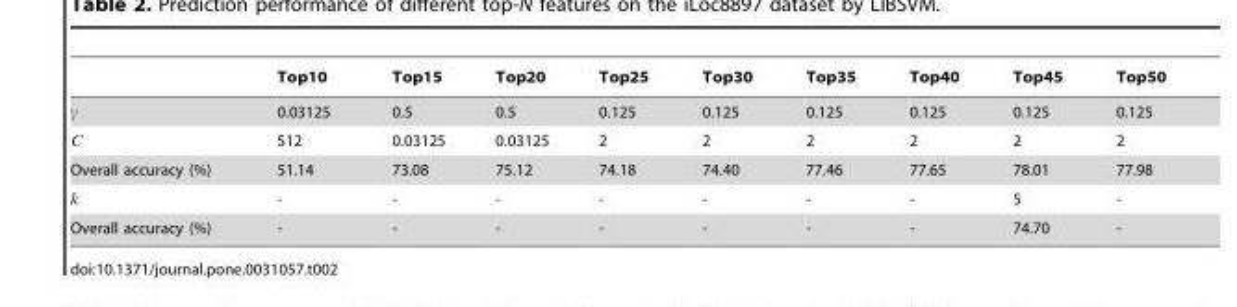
<table><thead><tr><td></td><td>Top10</td><td>Top15</td><td>Top20</td><td>Top25</td><td>Top30</td><td>Top35</td><td>Top40</td><td>Top45</td><td>Top50</td></tr></thead><tbody><tr><td>c</td><td>0.03125</td><td>0.5</td><td>0.5</td><td>0.125</td><td>0.125</td><td>0.125</td><td>0.125</td><td>0.125</td><td>0.125</td></tr><tr><td>C</td><td>512</td><td>0.03125</td><td>0.03125</td><td>2</td><td>2</td><td>2</td><td>2</td><td>2</td><td>2</td></tr><tr><td rowspan="2">Overall accuracy (%) k</td><td>51.14</td><td>73.08</td><td>75.12</td><td>74.18</td><td>74.40</td><td>77.46</td><td>77.65</td><td>78.01</td><td>77.98</td></tr><tr><td>-</td><td>-</td><td>-</td><td>-</td><td>-</td><td>-</td><td>-</td><td>5</td><td>-</td></tr><tr><td>Overall accuracy (%)</td><td>-</td><td>-</td><td>-</td><td>-</td><td>-</td><td>-</td><td>-</td><td>74.70</td><td>-</td></tr></tbody></table>